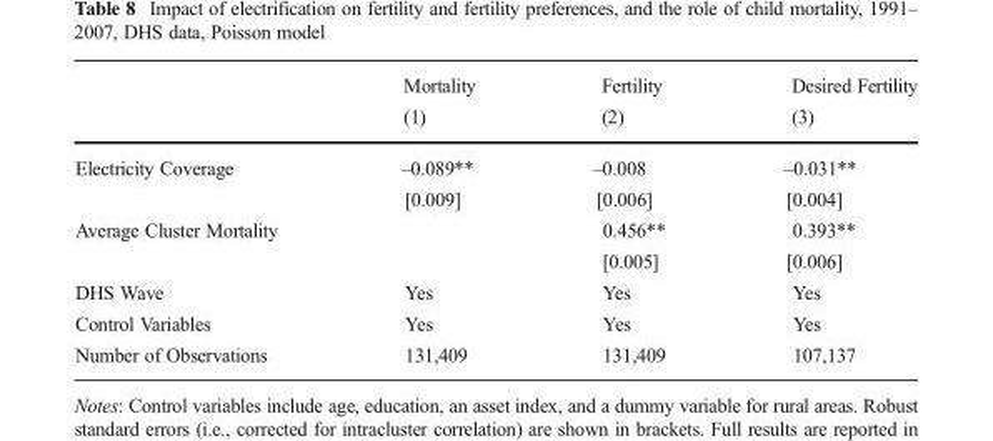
<table><thead><tr><td rowspan="2"></td><td rowspan="2">Mortality (1)</td><td rowspan="2">Fertility (2)</td><td rowspan="2">Desired Fertility (3)</td></tr><tr></tr></thead><tbody><tr><td rowspan="2">Electricity Coverage</td><td>–0.089**</td><td>–0.008</td><td>–0.031**</td></tr><tr><td>[0.009]</td><td>[0.006]</td><td>[0.004]</td></tr><tr><td rowspan="2">Average Cluster Mortality</td><td></td><td>0.456**</td><td>0.393**</td></tr><tr><td></td><td>[0.005]</td><td>[0.006]</td></tr><tr><td>DHS Wave</td><td>Yes</td><td>Yes</td><td>Yes</td></tr><tr><td>Control Variables</td><td>Yes</td><td>Yes</td><td>Yes</td></tr><tr><td>Number of Observations</td><td>131,409</td><td>131,409</td><td>107,137</td></tr></tbody></table>